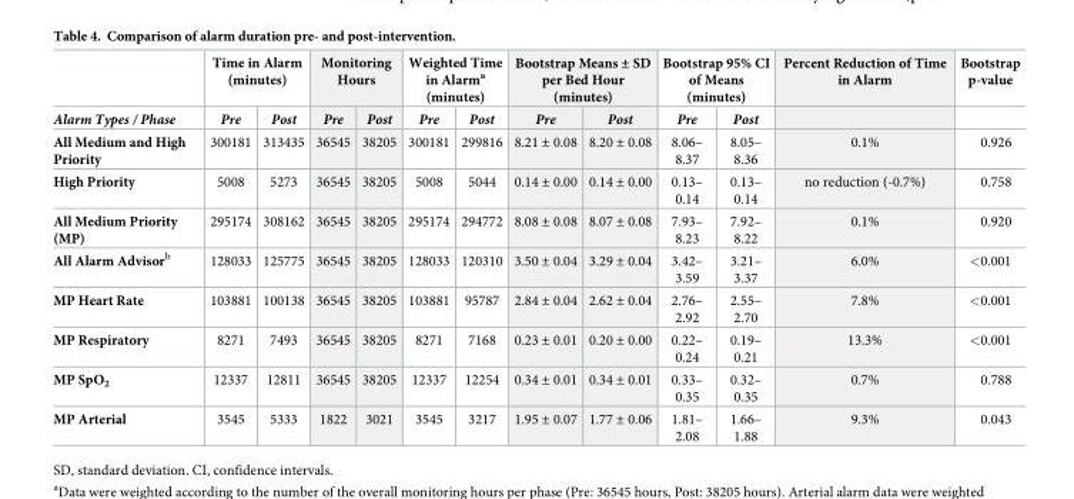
<table><thead><tr><td rowspan="2">Alarm Types / Phase</td><td colspan="2">Time in Alarm (minutes)</td><td colspan="2">Monitoring Hours</td><td colspan="2">Weighted Time in Alarm<sup>a</sup> (minutes)</td><td colspan="2">Bootstrap Means ± SD per Bed Hour (minutes)</td><td colspan="2">Bootstrap 95% CI of Means (minutes)</td><td rowspan="2">Percent Reduction of Time in Alarm</td><td rowspan="2">Bootstrap p-value</td></tr><tr><td>Pre</td><td>Post</td><td>Pre</td><td>Post</td><td>Pre</td><td>Post</td><td>Pre</td><td>Post</td><td>Pre</td><td>Post</td></tr></thead><tbody><tr><td>All Medium and High Priority</td><td>300181</td><td>313435</td><td>36545</td><td>38205</td><td>300181</td><td>299816</td><td>8.21 ± 0.08</td><td>8.20 ± 0.08</td><td>8.06– 8.37</td><td>8.05– 8.36</td><td>0.1%</td><td>0.926</td></tr><tr><td>High Priority</td><td>5008</td><td>5273</td><td>36545</td><td>38205</td><td>5008</td><td>5044</td><td>0.14 ± 0.00</td><td>0.14 ± 0.00</td><td>0.13– 0.14</td><td>0.13– 0.14</td><td>no reduction (-0.7%)</td><td>0.758</td></tr><tr><td>All Medium Priority (MP)</td><td>295174</td><td>308162</td><td>36545</td><td>38205</td><td>295174</td><td>294772</td><td>8.08 ± 0.08</td><td>8.07 ± 0.08</td><td>7.93– 8.23</td><td>7.92– 8.22</td><td>0.1%</td><td>0.920</td></tr><tr><td>All Alarm Advisor<sup>b</sup></td><td>128033</td><td>125775</td><td>36545</td><td>38205</td><td>128033</td><td>120310</td><td>3.50 ± 0.04</td><td>3.29 ± 0.04</td><td>3.42– 3.59</td><td>3.21– 3.37</td><td>6.0%</td><td>&lt;0.001</td></tr><tr><td>MP Heart Rate</td><td>103881</td><td>100138</td><td>36545</td><td>38205</td><td>103881</td><td>95787</td><td>2.84 ± 0.04</td><td>2.62 ± 0.04</td><td>2.76– 2.92</td><td>2.55– 2.70</td><td>7.8%</td><td>&lt;0.001</td></tr><tr><td>MP Respiratory</td><td>8271</td><td>7493</td><td>36545</td><td>38205</td><td>8271</td><td>7168</td><td>0.23 ± 0.01</td><td>0.20 ± 0.00</td><td>0.22– 0.24</td><td>0.19– 0.21</td><td>13.3%</td><td>&lt;0.001</td></tr><tr><td>MP SpO<sub>2</sub></td><td>12337</td><td>12811</td><td>36545</td><td>38205</td><td>12337</td><td>12254</td><td>0.34 ± 0.01</td><td>0.34 ± 0.01</td><td>0.33– 0.35</td><td>0.32– 0.35</td><td>0.7%</td><td>0.788</td></tr><tr><td>MP Arterial</td><td>3545</td><td>5333</td><td>1822</td><td>3021</td><td>3545</td><td>3217</td><td>1.95 ± 0.07</td><td>1.77 ± 0.06</td><td>1.81– 2.08</td><td>1.66– 1.88</td><td>9.3%</td><td>0.043</td></tr></tbody></table>